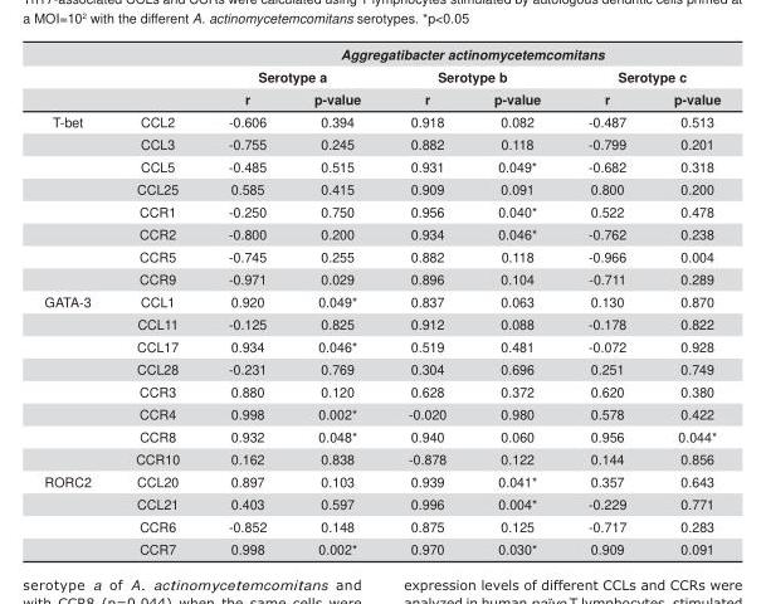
<table><thead><tr><td rowspan="3"></td><td rowspan="3"></td><td colspan="6">Aggregatibacter actinomycetemcomitans</td></tr><tr><td colspan="2">Serotype a</td><td colspan="2">Serotype b</td><td colspan="2">Serotype c</td></tr><tr><td>r</td><td>p-value</td><td>r</td><td>p-value</td><td>r</td><td>p-value</td></tr></thead><tbody><tr><td rowspan="8">T-bet</td><td>CCL2</td><td>-0.606</td><td>0.394</td><td>0.918</td><td>0.082</td><td>-0.487</td><td>0.513</td></tr><tr><td>CCL3</td><td>-0.755</td><td>0.245</td><td>0.882</td><td>0.118</td><td>-0.799</td><td>0.201</td></tr><tr><td>CCL5</td><td>-0.485</td><td>0.515</td><td>0.931</td><td>0.049*</td><td>-0.682</td><td>0.318</td></tr><tr><td>CCL25</td><td>0.585</td><td>0.415</td><td>0.909</td><td>0.091</td><td>0.800</td><td>0.200</td></tr><tr><td>CCR1</td><td>-0.250</td><td>0.750</td><td>0.956</td><td>0.040*</td><td>0.522</td><td>0.478</td></tr><tr><td>CCR2</td><td>-0.800</td><td>0.200</td><td>0.934</td><td>0.046*</td><td>-0.762</td><td>0.238</td></tr><tr><td>CCR5</td><td>-0.745</td><td>0.255</td><td>0.882</td><td>0.118</td><td>-0.966</td><td>0.004</td></tr><tr><td>CCR9</td><td>-0.971</td><td>0.029</td><td>0.896</td><td>0.104</td><td>-0.711</td><td>0.289</td></tr><tr><td rowspan="8">GATA-3</td><td>CCL1</td><td>0.920</td><td>0.049*</td><td>0.837</td><td>0.063</td><td>0.130</td><td>0.870</td></tr><tr><td>CCL11</td><td>-0.125</td><td>0.825</td><td>0.912</td><td>0.088</td><td>-0.178</td><td>0.822</td></tr><tr><td>CCL17</td><td>0.934</td><td>0.046*</td><td>0.519</td><td>0.481</td><td>-0.072</td><td>0.928</td></tr><tr><td>CCL28</td><td>-0.231</td><td>0.769</td><td>0.304</td><td>0.696</td><td>0.251</td><td>0.749</td></tr><tr><td>CCR3</td><td>0.880</td><td>0.120</td><td>0.628</td><td>0.372</td><td>0.620</td><td>0.380</td></tr><tr><td>CCR4</td><td>0.998</td><td>0.002*</td><td>-0.020</td><td>0.980</td><td>0.578</td><td>0.422</td></tr><tr><td>CCR8</td><td>0.932</td><td>0.048*</td><td>0.940</td><td>0.060</td><td>0.956</td><td>0.044*</td></tr><tr><td>CCR10</td><td>0.162</td><td>0.838</td><td>-0.878</td><td>0.122</td><td>0.144</td><td>0.856</td></tr><tr><td rowspan="4">RORC2</td><td>CCL20</td><td>0.897</td><td>0.103</td><td>0.939</td><td>0.041*</td><td>0.357</td><td>0.643</td></tr><tr><td>CCL21</td><td>0.403</td><td>0.597</td><td>0.996</td><td>0.004*</td><td>-0.229</td><td>0.771</td></tr><tr><td>CCR6</td><td>-0.852</td><td>0.148</td><td>0.875</td><td>0.125</td><td>-0.717</td><td>0.283</td></tr><tr><td>CCR7</td><td>0.998</td><td>0.002*</td><td>0.970</td><td>0.030*</td><td>0.909</td><td>0.091</td></tr></tbody></table>